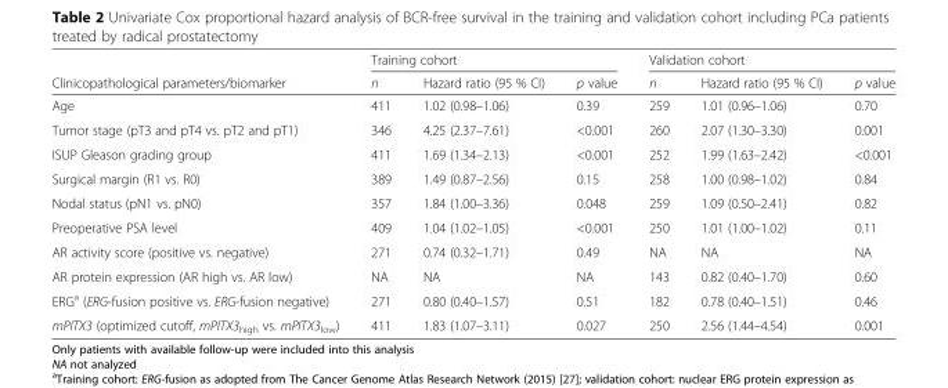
<table><thead><tr><td rowspan="2">Clinicopathological parameters/biomarker</td><td colspan="3">Training cohort</td><td colspan="3">Validation cohort</td></tr><tr><td>n</td><td>Hazard ratio (95 % CI)</td><td>p value</td><td>n</td><td>Hazard ratio (95 % CI)</td><td>p value</td></tr></thead><tbody><tr><td>Age</td><td>411</td><td>1.02 (0.98–1.06)</td><td>0.39</td><td>259</td><td>1.01 (0.96–1.06)</td><td>0.70</td></tr><tr><td>Tumor stage (pT3 and pT4 vs. pT2 and pT1)</td><td>346</td><td>4.25 (2.37–7.61)</td><td>&lt;0.001</td><td>260</td><td>2.07 (1.30–3.30)</td><td>0.001</td></tr><tr><td>ISUP Gleason grading group</td><td>411</td><td>1.69 (1.34–2.13)</td><td>&lt;0.001</td><td>252</td><td>1.99 (1.63–2.42)</td><td>&lt;0.001</td></tr><tr><td>Surgical margin (R1 vs. R0)</td><td>389</td><td>1.49 (0.87–2.56)</td><td>0.15</td><td>258</td><td>1.00 (0.98–1.02)</td><td>0.84</td></tr><tr><td>Nodal status (pN1 vs. pN0)</td><td>357</td><td>1.84 (1.00–3.36)</td><td>0.048</td><td>259</td><td>1.09 (0.50–2.41)</td><td>0.82</td></tr><tr><td>Preoperative PSA level</td><td>409</td><td>1.04 (1.02–1.05)</td><td>&lt;0.001</td><td>250</td><td>1.01 (1.00–1.02)</td><td>0.11</td></tr><tr><td>AR activity score (positive vs. negative)</td><td>271</td><td>0.74 (0.32–1.71)</td><td>0.49</td><td>NA</td><td>NA</td><td>NA</td></tr><tr><td>AR protein expression (AR high vs. AR low)</td><td>NA</td><td>NA</td><td>NA</td><td>143</td><td>0.82 (0.40–1.70)</td><td>0.60</td></tr><tr><td>ERG<sup>a</sup> (ERG-fusion positive vs. ERG-fusion negative)</td><td>271</td><td>0.80 (0.40–1.57)</td><td>0.51</td><td>182</td><td>0.78 (0.40–1.51)</td><td>0.46</td></tr><tr><td>mPITX3 (optimized cutoff, mPITX3<sub>high</sub> vs. mPITX3<sub>low</sub>)</td><td>411</td><td>1.83 (1.07–3.11)</td><td>0.027</td><td>250</td><td>2.56 (1.44–4.54)</td><td>0.001</td></tr></tbody></table>